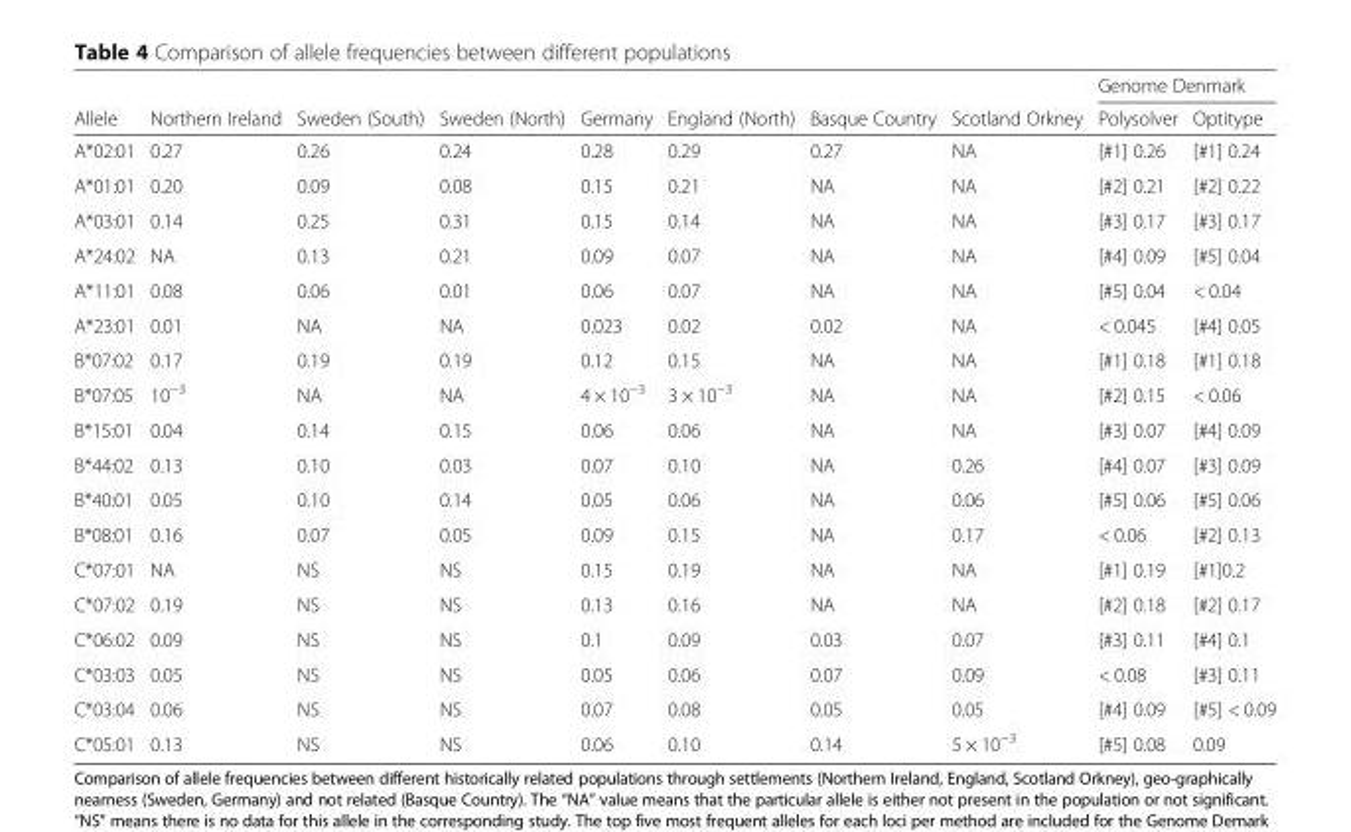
<table><thead><tr><td rowspan="2">Allele</td><td rowspan="2">Northern Ireland</td><td rowspan="2">Sweden (South)</td><td rowspan="2">Sweden (North)</td><td rowspan="2">Germany</td><td rowspan="2">England (North)</td><td rowspan="2">Basque Country</td><td rowspan="2">Scotland Orkney</td><td colspan="2">Genome Denmark</td></tr><tr><td>Polysolver</td><td>Optitype</td></tr></thead><tbody><tr><td>A*02:01</td><td>0.27</td><td>0.26</td><td>0.24</td><td>0.28</td><td>0.29</td><td>0.27</td><td>NA</td><td>[#1] 0.26</td><td>[#1] 0.24</td></tr><tr><td>A*01:01</td><td>0.20</td><td>0.09</td><td>0.08</td><td>0.15</td><td>0.21</td><td>NA</td><td>NA</td><td>[#2] 0.21</td><td>[#2] 0.22</td></tr><tr><td>A*03:01</td><td>0.14</td><td>0.25</td><td>0.31</td><td>0.15</td><td>0.14</td><td>NA</td><td>NA</td><td>[#3] 0.17</td><td>[#3] 0.17</td></tr><tr><td>A*24:02</td><td>NA</td><td>0.13</td><td>0.21</td><td>0.09</td><td>0.07</td><td>NA</td><td>NA</td><td>[#4] 0.09</td><td>[#5] 0.04</td></tr><tr><td>A*11:01</td><td>0.08</td><td>0.06</td><td>0.01</td><td>0.06</td><td>0.07</td><td>NA</td><td>NA</td><td>[#5] 0.04</td><td>&lt; 0.04</td></tr><tr><td>A*23:01</td><td>0.01</td><td>NA</td><td>NA</td><td>0.023</td><td>0.02</td><td>0.02</td><td>NA</td><td>&lt; 0.045</td><td>[#4] 0.05</td></tr><tr><td>B*07:02</td><td>0.17</td><td>0.19</td><td>0.19</td><td>0.12</td><td>0.15</td><td>NA</td><td>NA</td><td>[#1] 0.18</td><td>[#1] 0.18</td></tr><tr><td>B*07:05</td><td>10<sup>−3</sup></td><td>NA</td><td>NA</td><td>4 × 10<sup>−3</sup></td><td>3 × 10<sup>−3</sup></td><td>NA</td><td>NA</td><td>[#2] 0.15</td><td>&lt; 0.06</td></tr><tr><td>B*15:01</td><td>0.04</td><td>0.14</td><td>0.15</td><td>0.06</td><td>0.06</td><td>NA</td><td>NA</td><td>[#3] 0.07</td><td>[#4] 0.09</td></tr><tr><td>B*44:02</td><td>0.13</td><td>0.10</td><td>0.03</td><td>0.07</td><td>0.10</td><td>NA</td><td>0.26</td><td>[#4] 0.07</td><td>[#3] 0.09</td></tr><tr><td>B*40:01</td><td>0.05</td><td>0.10</td><td>0.14</td><td>0.05</td><td>0.06</td><td>NA</td><td>0.06</td><td>[#5] 0.06</td><td>[#5] 0.06</td></tr><tr><td>B*08:01</td><td>0.16</td><td>0.07</td><td>0.05</td><td>0.09</td><td>0.15</td><td>NA</td><td>0.17</td><td>&lt; 0.06</td><td>[#2] 0.13</td></tr><tr><td>C*07:01</td><td>NA</td><td>NS</td><td>NS</td><td>0.15</td><td>0.19</td><td>NA</td><td>NA</td><td>[#1] 0.19</td><td>[#1]0.2</td></tr><tr><td>C*07:02</td><td>0.19</td><td>NS</td><td>NS</td><td>0.13</td><td>0.16</td><td>NA</td><td>NA</td><td>[#2] 0.18</td><td>[#2] 0.17</td></tr><tr><td>C*06:02</td><td>0.09</td><td>NS</td><td>NS</td><td>0.1</td><td>0.09</td><td>0.03</td><td>0.07</td><td>[#3] 0.11</td><td>[#4] 0.1</td></tr><tr><td>C*03:03</td><td>0.05</td><td>NS</td><td>NS</td><td>0.05</td><td>0.06</td><td>0.07</td><td>0.09</td><td>&lt; 0.08</td><td>[#3] 0.11</td></tr><tr><td>C*03:04</td><td>0.06</td><td>NS</td><td>NS</td><td>0.07</td><td>0.08</td><td>0.05</td><td>0.05</td><td>[#4] 0.09</td><td>[#5] &lt; 0.09</td></tr><tr><td>C*05:01</td><td>0.13</td><td>NS</td><td>NS</td><td>0.06</td><td>0.10</td><td>0.14</td><td>5 × 10<sup>−3</sup></td><td>[#5] 0.08</td><td>0.09</td></tr></tbody></table>